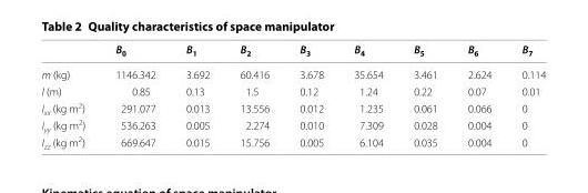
<table><thead><tr><td></td><td>B<sub>0</sub></td><td>B<sub>1</sub></td><td>B<sub>2</sub></td><td>B<sub>3</sub></td><td>B<sub>4</sub></td><td>B<sub>5</sub></td><td>B<sub>6</sub></td><td>B<sub>7</sub></td></tr></thead><tbody><tr><td>m (kg)</td><td>1146.342</td><td>3.692</td><td>60.416</td><td>3.678</td><td>35.654</td><td>3.461</td><td>2.624</td><td>0.114</td></tr><tr><td>l (m)</td><td>0.85</td><td>0.13</td><td>1.5</td><td>0.12</td><td>1.24</td><td>0.22</td><td>0.07</td><td>0.01</td></tr><tr><td>I<sub>xx</sub> (kg m<sup>2</sup>)</td><td>291.077</td><td>0.013</td><td>13.556</td><td>0.012</td><td>1.235</td><td>0.061</td><td>0.066</td><td>0</td></tr><tr><td>I<sub>yy</sub> (kg m<sup>2</sup>)</td><td>536.263</td><td>0.005</td><td>2.274</td><td>0.010</td><td>7.309</td><td>0.028</td><td>0.004</td><td>0</td></tr><tr><td>I<sub>zz</sub> (kg m<sup>2</sup>)</td><td>669.647</td><td>0.015</td><td>15.756</td><td>0.005</td><td>6.104</td><td>0.035</td><td>0.004</td><td>0</td></tr></tbody></table>